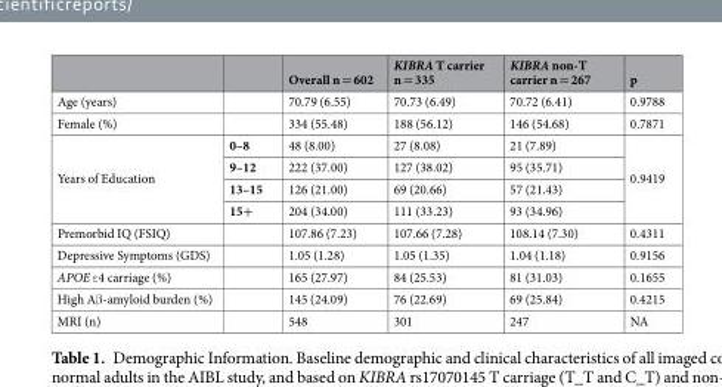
<table><thead><tr><td></td><td></td><td>Overall n = 602</td><td>KIBRA T carrier n = 335</td><td>KIBRA non-T carrier n = 267</td><td>p</td></tr></thead><tbody><tr><td>Age (years)</td><td></td><td>70.79 (6.55)</td><td>70.73 (6.49)</td><td>70.72 (6.41)</td><td>0.9788</td></tr><tr><td>Female (%)</td><td></td><td>334 (55.48)</td><td>188 (56.12)</td><td>146 (54.68)</td><td>0.7871</td></tr><tr><td rowspan="4">Years of Education</td><td>0–8</td><td>48 (8.00)</td><td>27 (8.08)</td><td>21 (7.89)</td><td rowspan="4">0.9419</td></tr><tr><td>9–12</td><td>222 (37.00)</td><td>127 (38.02)</td><td>95 (35.71)</td></tr><tr><td>13–15</td><td>126 (21.00)</td><td>69 (20.66)</td><td>57 (21.43)</td></tr><tr><td>15+</td><td>204 (34.00)</td><td>111 (33.23)</td><td>93 (34.96)</td></tr><tr><td>Premorbid IQ (FSIQ)</td><td></td><td>107.86 (7.23)</td><td>107.66 (7.28)</td><td>108.14 (7.30)</td><td>0.4311</td></tr><tr><td>Depressive Symptoms (GDS)</td><td></td><td>1.05 (1.28)</td><td>1.05 (1.35)</td><td>1.04 (1.18)</td><td>0.9156</td></tr><tr><td>APOE ε4 carriage (%)</td><td></td><td>165 (27.97)</td><td>84 (25.53)</td><td>81 (31.03)</td><td>0.1655</td></tr><tr><td>High Aβ-amyloid burden (%)</td><td></td><td>145 (24.09)</td><td>76 (22.69)</td><td>69 (25.84)</td><td>0.4215</td></tr><tr><td>MRI (n)</td><td></td><td>548</td><td>301</td><td>247</td><td>NA</td></tr></tbody></table>